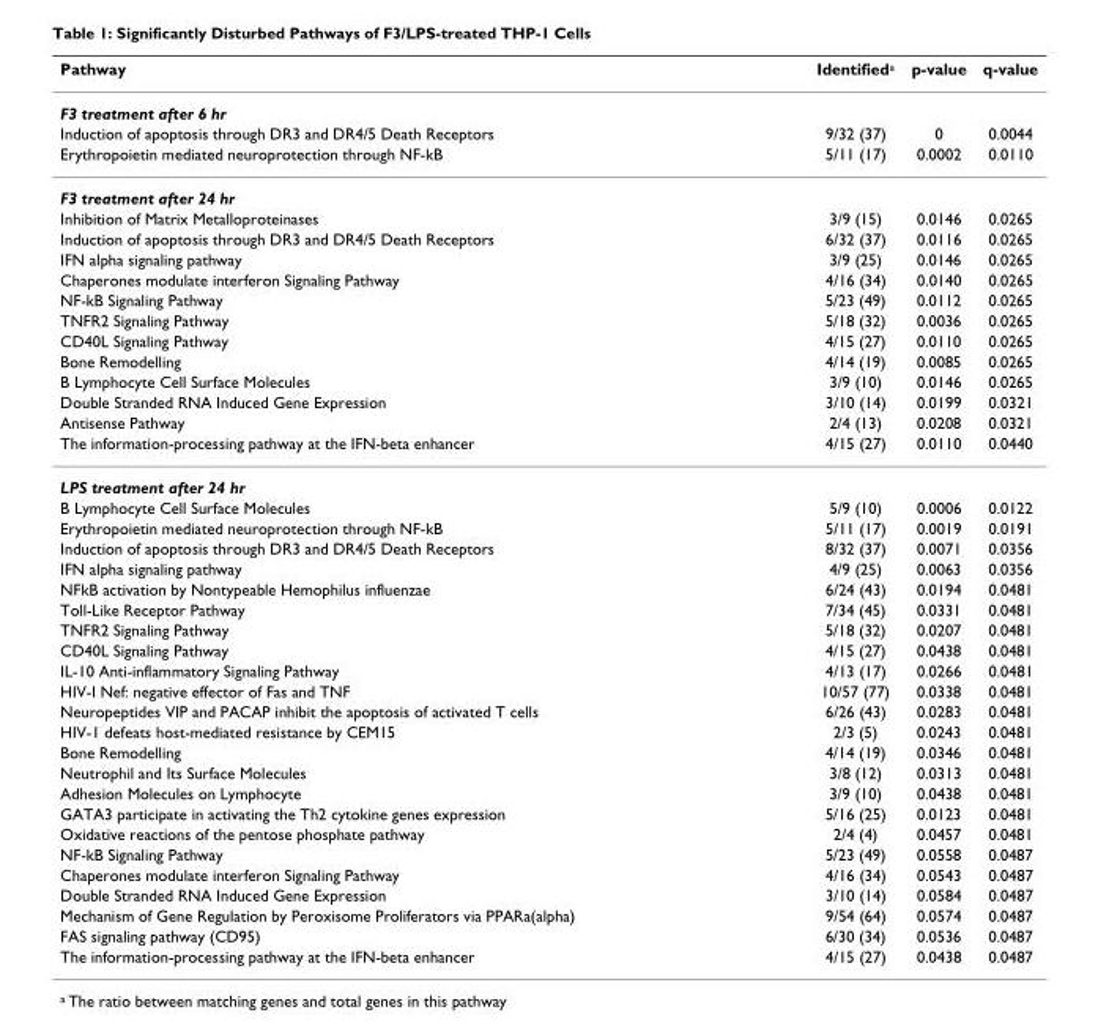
<table><thead><tr><td>Pathway</td><td>Identified<sup>a</sup></td><td>p-value</td><td>q-value</td></tr></thead><tbody><tr><td colspan="4">F3 treatment after 6 hr</td></tr><tr><td>Induction of apoptosis through DR3 and DR4/5 Death Receptors</td><td>9/32 (37)</td><td>0</td><td>0.0044</td></tr><tr><td>Erythropoietin mediated neuroprotection through NF-kB</td><td>5/11 (17)</td><td>0.0002</td><td>0.0110</td></tr><tr><td colspan="4">F3 treatment after 24 hr</td></tr><tr><td>Inhibition of Matrix Metalloproteinases</td><td>3/9 (15)</td><td>0.0146</td><td>0.0265</td></tr><tr><td>Induction of apoptosis through DR3 and DR4/5 Death Receptors</td><td>6/32 (37)</td><td>0.0116</td><td>0.0265</td></tr><tr><td>IFN alpha signaling pathway</td><td>3/9 (25)</td><td>0.0146</td><td>0.0265</td></tr><tr><td>Chaperones modulate interferon Signaling Pathway</td><td>4/16 (34)</td><td>0.0140</td><td>0.0265</td></tr><tr><td>NF-kB Signaling Pathway</td><td>5/23 (49)</td><td>0.0112</td><td>0.0265</td></tr><tr><td>TNFR2 Signaling Pathway</td><td>5/18 (32)</td><td>0.0036</td><td>0.0265</td></tr><tr><td>CD40L Signaling Pathway</td><td>4/15 (27)</td><td>0.0110</td><td>0.0265</td></tr><tr><td>Bone Remodelling</td><td>4/14 (19)</td><td>0.0085</td><td>0.0265</td></tr><tr><td>B Lymphocyte Cell Surface Molecules</td><td>3/9 (10)</td><td>0.0146</td><td>0.0265</td></tr><tr><td>Double Stranded RNA Induced Gene Expression</td><td>3/10 (14)</td><td>0.0199</td><td>0.0321</td></tr><tr><td>Antisense Pathway</td><td>2/4 (13)</td><td>0.0208</td><td>0.0321</td></tr><tr><td>The information-processing pathway at the IFN-beta enhancer</td><td>4/15 (27)</td><td>0.0110</td><td>0.0440</td></tr><tr><td colspan="4">LPS treatment after 24 hr</td></tr><tr><td>B Lymphocyte Cell Surface Molecules</td><td>5/9 (10)</td><td>0.0006</td><td>0.0122</td></tr><tr><td>Erythropoietin mediated neuroprotection through NF-kB</td><td>5/11 (17)</td><td>0.0019</td><td>0.0191</td></tr><tr><td>Induction of apoptosis through DR3 and DR4/5 Death Receptors</td><td>8/32 (37)</td><td>0.0071</td><td>0.0356</td></tr><tr><td>IFN alpha signaling pathway</td><td>4/9 (25)</td><td>0.0063</td><td>0.0356</td></tr><tr><td>NFkB activation by Nontypeable Hemophilus influenzae</td><td>6/24 (43)</td><td>0.0194</td><td>0.0481</td></tr><tr><td>Toll-Like Receptor Pathway</td><td>7/34 (45)</td><td>0.0331</td><td>0.0481</td></tr><tr><td>TNFR2 Signaling Pathway</td><td>5/18 (32)</td><td>0.0207</td><td>0.0481</td></tr><tr><td>CD40L Signaling Pathway</td><td>4/15 (27)</td><td>0.0438</td><td>0.0481</td></tr><tr><td>IL-10 Anti-inflammatory Signaling Pathway</td><td>4/13 (17)</td><td>0.0266</td><td>0.0481</td></tr><tr><td>HIV-I Nef: negative effector of Fas and TNF</td><td>10/57 (77)</td><td>0.0338</td><td>0.0481</td></tr><tr><td>Neuropeptides VIP and PACAP inhibit the apoptosis of activated T cells</td><td>6/26 (43)</td><td>0.0283</td><td>0.0481</td></tr><tr><td>HIV-1 defeats host-mediated resistance by CEM15</td><td>2/3 (5)</td><td>0.0243</td><td>0.0481</td></tr><tr><td>Bone Remodelling</td><td>4/14 (19)</td><td>0.0346</td><td>0.0481</td></tr><tr><td>Neutrophil and Its Surface Molecules</td><td>3/8 (12)</td><td>0.0313</td><td>0.0481</td></tr><tr><td>Adhesion Molecules on Lymphocyte</td><td>3/9 (10)</td><td>0.0438</td><td>0.0481</td></tr><tr><td>GATA3 participate in activating the Th2 cytokine genes expression</td><td>5/16 (25)</td><td>0.0123</td><td>0.0481</td></tr><tr><td>Oxidative reactions of the pentose phosphate pathway</td><td>2/4 (4)</td><td>0.0457</td><td>0.0481</td></tr><tr><td>NF-kB Signaling Pathway</td><td>5/23 (49)</td><td>0.0558</td><td>0.0487</td></tr><tr><td>Chaperones modulate interferon Signaling Pathway</td><td>4/16 (34)</td><td>0.0543</td><td>0.0487</td></tr><tr><td>Double Stranded RNA Induced Gene Expression</td><td>3/10 (14)</td><td>0.0584</td><td>0.0487</td></tr><tr><td>Mechanism of Gene Regulation by Peroxisome Proliferators via PPARa(alpha)</td><td>9/54 (64)</td><td>0.0574</td><td>0.0487</td></tr><tr><td>FAS signaling pathway (CD95)</td><td>6/30 (34)</td><td>0.0536</td><td>0.0487</td></tr><tr><td>The information-processing pathway at the IFN-beta enhancer</td><td>4/15 (27)</td><td>0.0438</td><td>0.0487</td></tr></tbody></table>